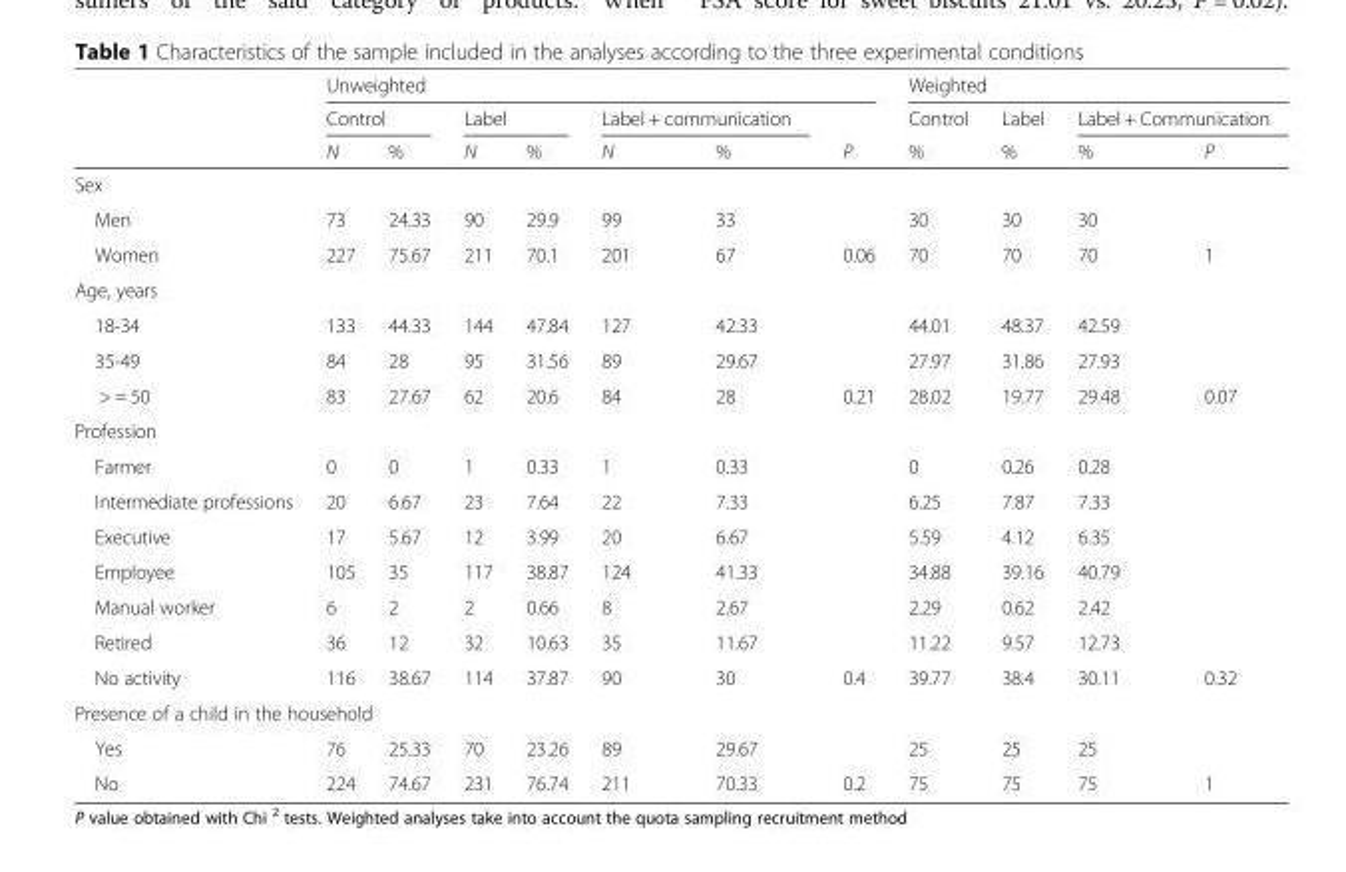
<table><thead><tr><td rowspan="3"></td><td colspan="7">Unweighted</td><td colspan="4">Weighted</td></tr><tr><td colspan="2">Control</td><td colspan="2">Label</td><td colspan="2">Label + communication</td><td rowspan="2">P</td><td rowspan="2">Control %</td><td rowspan="2">Label %</td><td colspan="2">Label + Communication</td></tr><tr><td>N</td><td>%</td><td>N</td><td>%</td><td>N</td><td>%</td><td>%</td><td>P</td></tr></thead><tbody><tr><td colspan="12">Sex</td></tr><tr><td>Men</td><td>73</td><td>24.33</td><td>90</td><td>29.9</td><td>99</td><td>33</td><td></td><td>30</td><td>30</td><td>30</td><td></td></tr><tr><td>Women</td><td>227</td><td>75.67</td><td>211</td><td>70.1</td><td>201</td><td>67</td><td>0.06</td><td>70</td><td>70</td><td>70</td><td>1</td></tr><tr><td colspan="12">Age, years</td></tr><tr><td>18-34</td><td>133</td><td>44.33</td><td>144</td><td>47.84</td><td>127</td><td>42.33</td><td></td><td>44.01</td><td>48.37</td><td>42.59</td><td></td></tr><tr><td>35-49</td><td>84</td><td>28</td><td>95</td><td>31.56</td><td>89</td><td>29.67</td><td></td><td>27.97</td><td>31.86</td><td>27.93</td><td></td></tr><tr><td>&gt; = 50</td><td>83</td><td>27.67</td><td>62</td><td>20.6</td><td>84</td><td>28</td><td>0.21</td><td>28.02</td><td>19.77</td><td>29.48</td><td>0.07</td></tr><tr><td colspan="12">Profession</td></tr><tr><td>Farmer</td><td>0</td><td>0</td><td>1</td><td>0.33</td><td>1</td><td>0.33</td><td></td><td>0</td><td>0.26</td><td>0.28</td><td></td></tr><tr><td>Intermediate professions</td><td>20</td><td>6.67</td><td>23</td><td>7.64</td><td>22</td><td>7.33</td><td></td><td>6.25</td><td>7.87</td><td>7.33</td><td></td></tr><tr><td>Executive</td><td>17</td><td>5.67</td><td>12</td><td>3.99</td><td>20</td><td>6.67</td><td></td><td>5.59</td><td>4.12</td><td>6.35</td><td></td></tr><tr><td>Employee</td><td>105</td><td>35</td><td>117</td><td>38.87</td><td>124</td><td>41.33</td><td></td><td>34.88</td><td>39.16</td><td>40.79</td><td></td></tr><tr><td>Manual worker</td><td>6</td><td>2</td><td>2</td><td>0.66</td><td>8</td><td>2.67</td><td></td><td>2.29</td><td>0.62</td><td>2.42</td><td></td></tr><tr><td>Retired</td><td>36</td><td>12</td><td>32</td><td>10.63</td><td>35</td><td>11.67</td><td></td><td>11.22</td><td>9.57</td><td>12.73</td><td></td></tr><tr><td>No activity</td><td>116</td><td>38.67</td><td>114</td><td>37.87</td><td>90</td><td>30</td><td>0.4</td><td>39.77</td><td>38.4</td><td>30.11</td><td>0.32</td></tr><tr><td colspan="12">Presence of a child in the household</td></tr><tr><td>Yes</td><td>76</td><td>25.33</td><td>70</td><td>23.26</td><td>89</td><td>29.67</td><td></td><td>25</td><td>25</td><td>25</td><td></td></tr><tr><td>No</td><td>224</td><td>74.67</td><td>231</td><td>76.74</td><td>211</td><td>70.33</td><td>0.2</td><td>75</td><td>75</td><td>75</td><td>1</td></tr></tbody></table>